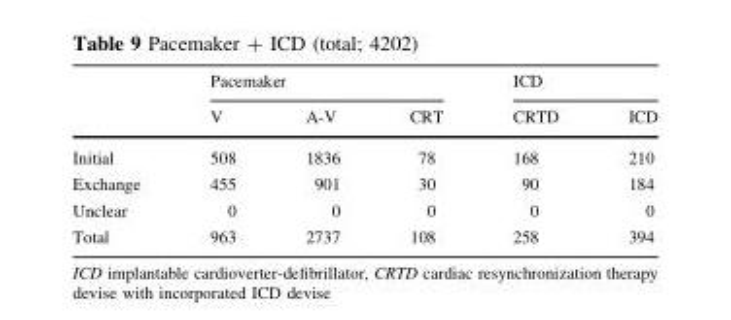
<table><thead><tr><td rowspan="2"></td><td colspan="3">Pacemaker</td><td colspan="2">ICD</td></tr><tr><td>V</td><td>A-V</td><td>CRT</td><td>CRTD</td><td>ICD</td></tr></thead><tbody><tr><td>Initial</td><td>508</td><td>1836</td><td>78</td><td>168</td><td>210</td></tr><tr><td>Exchange</td><td>455</td><td>901</td><td>30</td><td>90</td><td>184</td></tr><tr><td>Unclear</td><td>0</td><td>0</td><td>0</td><td>0</td><td>0</td></tr><tr><td>Total</td><td>963</td><td>2737</td><td>108</td><td>258</td><td>394</td></tr></tbody></table>